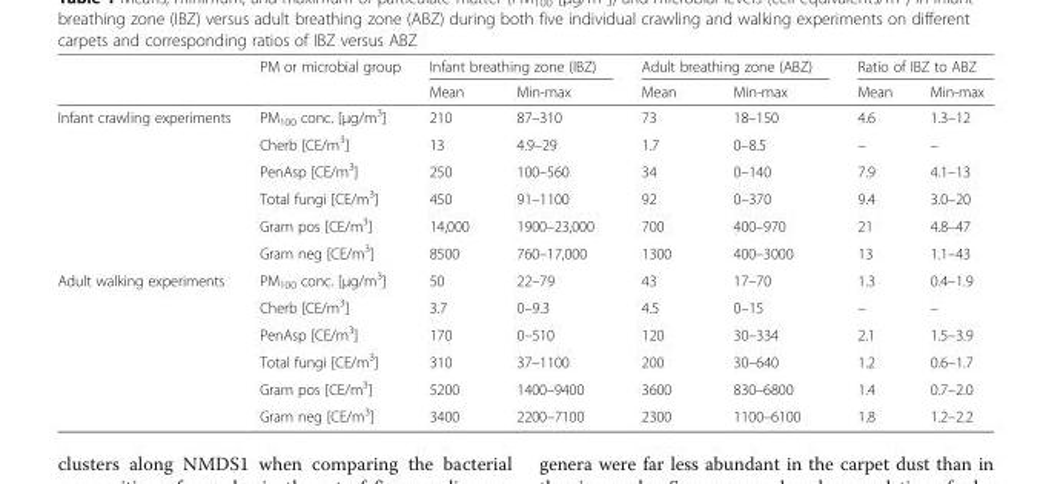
<table><thead><tr><td rowspan="2"></td><td rowspan="2">PM or microbial group</td><td colspan="2">Infant breathing zone (IBZ)</td><td colspan="2">Adult breathing zone (ABZ)</td><td colspan="2">Ratio of IBZ to ABZ</td></tr><tr><td>Mean</td><td>Min-max</td><td>Mean</td><td>Min-max</td><td>Mean</td><td>Min-max</td></tr></thead><tbody><tr><td rowspan="6">Infant crawling experiments</td><td>PM<sub>100</sub> conc. [μg/m<sup>3</sup>]</td><td>210</td><td>87–310</td><td>73</td><td>18–150</td><td>4.6</td><td>1.3–12</td></tr><tr><td>Cherb [CE/m<sup>3</sup>]</td><td>13</td><td>4.9–29</td><td>1.7</td><td>0–8.5</td><td>–</td><td>–</td></tr><tr><td>PenAsp [CE/m<sup>3</sup>]</td><td>250</td><td>100–560</td><td>34</td><td>0–140</td><td>7.9</td><td>4.1–13</td></tr><tr><td>Total fungi [CE/m<sup>3</sup>]</td><td>450</td><td>91–1100</td><td>92</td><td>0–370</td><td>9.4</td><td>3.0–20</td></tr><tr><td>Gram pos [CE/m<sup>3</sup>]</td><td>14,000</td><td>1900–23,000</td><td>700</td><td>400–970</td><td>21</td><td>4.8–47</td></tr><tr><td>Gram neg [CE/m<sup>3</sup>]</td><td>8500</td><td>760–17,000</td><td>1300</td><td>400–3000</td><td>13</td><td>1.1–43</td></tr><tr><td rowspan="6">Adult walking experiments</td><td>PM<sub>100</sub> conc. [μg/m<sup>3</sup>]</td><td>50</td><td>22–79</td><td>43</td><td>17–70</td><td>1.3</td><td>0.4–1.9</td></tr><tr><td>Cherb [CE/m<sup>3</sup>]</td><td>3.7</td><td>0–9.3</td><td>4.5</td><td>0–15</td><td>–</td><td>–</td></tr><tr><td>PenAsp [CE/m<sup>3</sup>]</td><td>170</td><td>0–510</td><td>120</td><td>30–334</td><td>2.1</td><td>1.5–3.9</td></tr><tr><td>Total fungi [CE/m<sup>3</sup>]</td><td>310</td><td>37–1100</td><td>200</td><td>30–640</td><td>1.2</td><td>0.6–1.7</td></tr><tr><td>Gram pos [CE/m<sup>3</sup>]</td><td>5200</td><td>1400–9400</td><td>3600</td><td>830–6800</td><td>1.4</td><td>0.7–2.0</td></tr><tr><td>Gram neg [CE/m<sup>3</sup>]</td><td>3400</td><td>2200–7100</td><td>2300</td><td>1100–6100</td><td>1.8</td><td>1.2–2.2</td></tr></tbody></table>